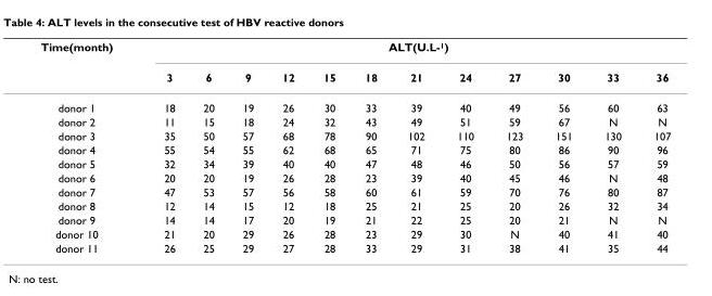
<table><thead><tr><td rowspan="2">Time(month)</td><td colspan="12">ALT(U.L-<sup>1</sup>)</td></tr><tr><td>3</td><td>6</td><td>9</td><td>12</td><td>15</td><td>18</td><td>21</td><td>24</td><td>27</td><td>30</td><td>33</td><td>36</td></tr></thead><tbody><tr><td>donor 1</td><td>18</td><td>20</td><td>19</td><td>26</td><td>30</td><td>33</td><td>39</td><td>40</td><td>49</td><td>56</td><td>60</td><td>63</td></tr><tr><td>donor 2</td><td>11</td><td>15</td><td>18</td><td>24</td><td>32</td><td>43</td><td>49</td><td>51</td><td>59</td><td>67</td><td>N</td><td>N</td></tr><tr><td>donor 3</td><td>35</td><td>50</td><td>57</td><td>68</td><td>78</td><td>90</td><td>102</td><td>110</td><td>123</td><td>151</td><td>130</td><td>107</td></tr><tr><td>donor 4</td><td>55</td><td>54</td><td>55</td><td>62</td><td>68</td><td>65</td><td>71</td><td>75</td><td>80</td><td>86</td><td>90</td><td>96</td></tr><tr><td>donor 5</td><td>32</td><td>34</td><td>39</td><td>40</td><td>40</td><td>47</td><td>48</td><td>46</td><td>50</td><td>56</td><td>57</td><td>59</td></tr><tr><td>donor 6</td><td>20</td><td>20</td><td>19</td><td>26</td><td>28</td><td>23</td><td>39</td><td>40</td><td>45</td><td>46</td><td>N</td><td>48</td></tr><tr><td>donor 7</td><td>47</td><td>53</td><td>57</td><td>56</td><td>58</td><td>60</td><td>61</td><td>59</td><td>70</td><td>76</td><td>80</td><td>87</td></tr><tr><td>donor 8</td><td>12</td><td>14</td><td>15</td><td>12</td><td>18</td><td>25</td><td>21</td><td>25</td><td>20</td><td>26</td><td>32</td><td>34</td></tr><tr><td>donor 9</td><td>14</td><td>14</td><td>17</td><td>20</td><td>19</td><td>21</td><td>22</td><td>25</td><td>20</td><td>21</td><td>N</td><td>N</td></tr><tr><td>donor 10</td><td>21</td><td>20</td><td>29</td><td>26</td><td>28</td><td>23</td><td>29</td><td>30</td><td>N</td><td>40</td><td>41</td><td>40</td></tr><tr><td>donor 11</td><td>26</td><td>25</td><td>29</td><td>27</td><td>28</td><td>33</td><td>29</td><td>31</td><td>38</td><td>41</td><td>35</td><td>44</td></tr></tbody></table>